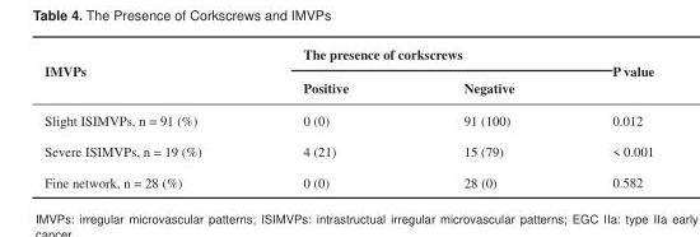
<table><thead><tr><td rowspan="2">IMVPs</td><td colspan="2">The presence of corkscrews</td><td rowspan="2">P value</td></tr><tr><td>Positive</td><td>Negative</td></tr></thead><tbody><tr><td>Slight ISIMVPs, n = 91 (%)</td><td>0 (0)</td><td>91 (100)</td><td>0.012</td></tr><tr><td>Severe ISIMVPs, n = 19 (%)</td><td>4 (21)</td><td>15 (79)</td><td>&lt; 0.001</td></tr><tr><td>Fine network, n = 28 (%)</td><td>0 (0)</td><td>28 (0)</td><td>0.582</td></tr></tbody></table>